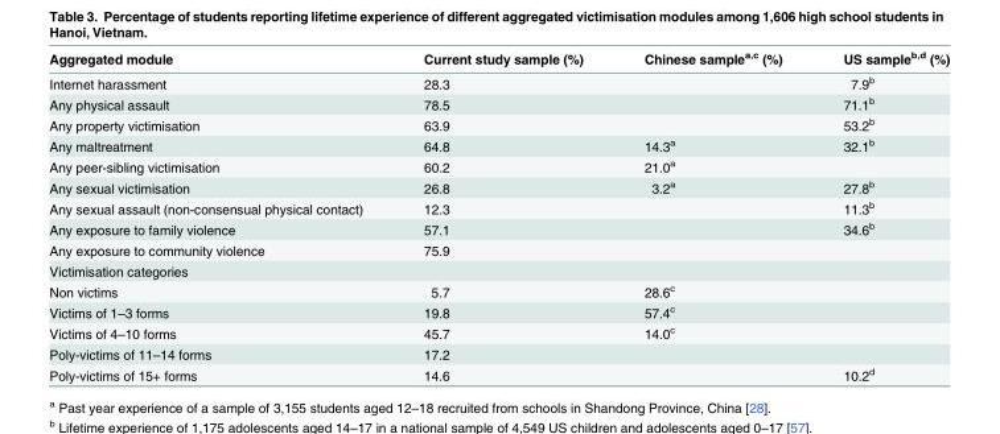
<table><thead><tr><td>Aggregated module</td><td>Current study sample (%)</td><td>Chinese sample<sup>a,c</sup> (%)</td><td>US sample<sup>b,d</sup> (%)</td></tr></thead><tbody><tr><td>Internet harassment</td><td>28.3</td><td></td><td>7.9<sup>b</sup></td></tr><tr><td>Any physical assault</td><td>78.5</td><td></td><td>71.1<sup>b</sup></td></tr><tr><td>Any property victimisation</td><td>63.9</td><td></td><td>53.2<sup>b</sup></td></tr><tr><td>Any maltreatment</td><td>64.8</td><td>14.3<sup>a</sup></td><td>32.1<sup>b</sup></td></tr><tr><td>Any peer-sibling victimisation</td><td>60.2</td><td>21.0<sup>a</sup></td><td></td></tr><tr><td>Any sexual victimisation</td><td>26.8</td><td>3.2<sup>a</sup></td><td>27.8<sup>b</sup></td></tr><tr><td>Any sexual assault (non-consensual physical contact)</td><td>12.3</td><td></td><td>11.3<sup>b</sup></td></tr><tr><td>Any exposure to family violence</td><td>57.1</td><td></td><td>34.6<sup>b</sup></td></tr><tr><td>Any exposure to community violence</td><td>75.9</td><td></td><td></td></tr><tr><td colspan="4">Victimisation categories</td></tr><tr><td>Non victims</td><td>5.7</td><td>28.6<sup>c</sup></td><td></td></tr><tr><td>Victims of 1–3 forms</td><td>19.8</td><td>57.4<sup>c</sup></td><td></td></tr><tr><td>Victims of 4–10 forms</td><td>45.7</td><td>14.0<sup>c</sup></td><td></td></tr><tr><td>Poly-victims of 11–14 forms</td><td>17.2</td><td></td><td></td></tr><tr><td>Poly-victims of 15+ forms</td><td>14.6</td><td></td><td>10.2<sup>d</sup></td></tr></tbody></table>